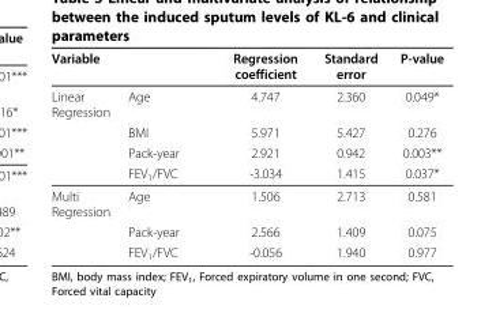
<table><thead><tr><td>Variable</td><td></td><td>Regression coefficient</td><td>Standard error</td><td>P-value</td></tr></thead><tbody><tr><td rowspan="4">Linear Regression</td><td>Age</td><td>4.747</td><td>2.360</td><td>0.049*</td></tr><tr><td>BMI</td><td>5.971</td><td>5.427</td><td>0.276</td></tr><tr><td>Pack-year</td><td>2.921</td><td>0.942</td><td>0.003**</td></tr><tr><td>FEV<sub>1</sub>/FVC</td><td>-3.034</td><td>1.415</td><td>0.037*</td></tr><tr><td rowspan="3">Multi Regression</td><td>Age</td><td>1.506</td><td>2.713</td><td>0.581</td></tr><tr><td>Pack-year</td><td>2.566</td><td>1.409</td><td>0.075</td></tr><tr><td>FEV<sub>1</sub>/FVC</td><td>-0.056</td><td>1.940</td><td>0.977</td></tr></tbody></table>